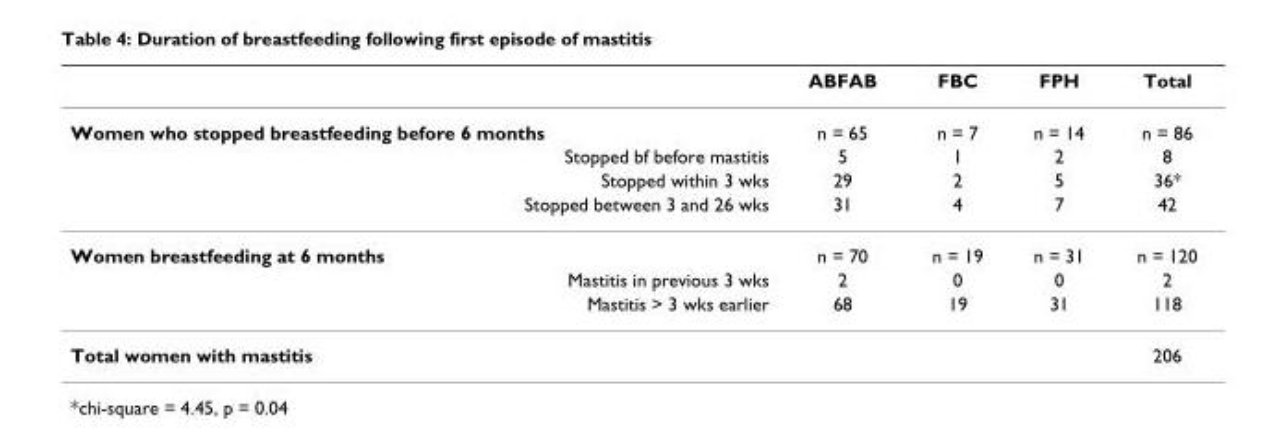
<table><thead><tr><td></td><td>ABFAB</td><td>FBC</td><td>FPH</td><td>Total</td></tr></thead><tbody><tr><td>Women who stopped breastfeeding before 6 months</td><td>n = 65</td><td>n = 7</td><td>n = 14</td><td>n = 86</td></tr><tr><td>Stopped bf before mastitis</td><td>5</td><td>1</td><td>2</td><td>8</td></tr><tr><td>Stopped within 3 wks</td><td>29</td><td>2</td><td>5</td><td>36*</td></tr><tr><td>Stopped between 3 and 26 wks</td><td>31</td><td>4</td><td>7</td><td>42</td></tr><tr><td>Women breastfeeding at 6 months</td><td>n = 70</td><td>n = 19</td><td>n = 31</td><td>n = 120</td></tr><tr><td>Mastitis in previous 3 wks</td><td>2</td><td>0</td><td>0</td><td>2</td></tr><tr><td>Mastitis &gt; 3 wks earlier</td><td>68</td><td>19</td><td>31</td><td>118</td></tr><tr><td>Total women with mastitis</td><td></td><td></td><td></td><td>206</td></tr></tbody></table>